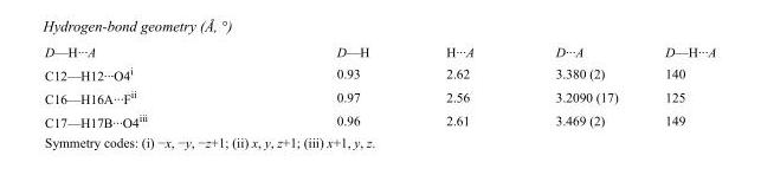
<table><tbody><tr><td>D—H···A</td><td>D—H</td><td>H···A</td><td>D···A</td><td>D—H···A</td></tr><tr><td>C12—H12···O4<sup>i</sup></td><td>0.93</td><td>2.62</td><td>3.380 (2)</td><td>140</td></tr><tr><td>C16—H16A···F<sup>ii</sup></td><td>0.97</td><td>2.56</td><td>3.2090 (17)</td><td>125</td></tr><tr><td>C17—H17B···O4<sup>iii</sup></td><td>0.96</td><td>2.61</td><td>3.469 (2)</td><td>149</td></tr></tbody></table>